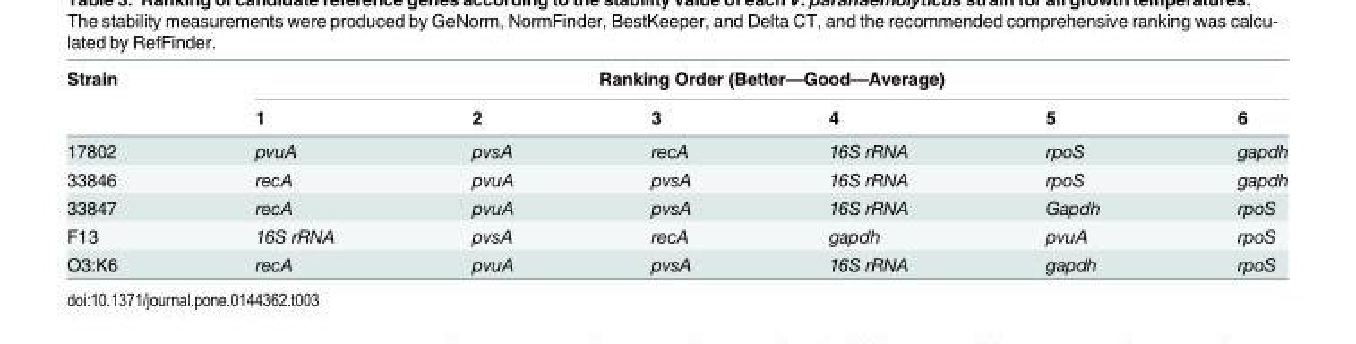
<table><thead><tr><td rowspan="2">Strain</td><td colspan="6">Ranking Order (Better—Good—Average)</td></tr><tr><td>1</td><td>2</td><td>3</td><td>4</td><td>5</td><td>6</td></tr></thead><tbody><tr><td>17802</td><td>pvuA</td><td>pvsA</td><td>recA</td><td>16S rRNA</td><td>rpoS</td><td>gapdh</td></tr><tr><td>33846</td><td>recA</td><td>pvuA</td><td>pvsA</td><td>16S rRNA</td><td>rpoS</td><td>gapdh</td></tr><tr><td>33847</td><td>recA</td><td>pvuA</td><td>pvsA</td><td>16S rRNA</td><td>Gapdh</td><td>rpoS</td></tr><tr><td>F13</td><td>16S rRNA</td><td>pvsA</td><td>recA</td><td>gapdh</td><td>pvuA</td><td>rpoS</td></tr><tr><td>O3:K6</td><td>recA</td><td>pvuA</td><td>pvsA</td><td>16S rRNA</td><td>gapdh</td><td>rpoS</td></tr></tbody></table>